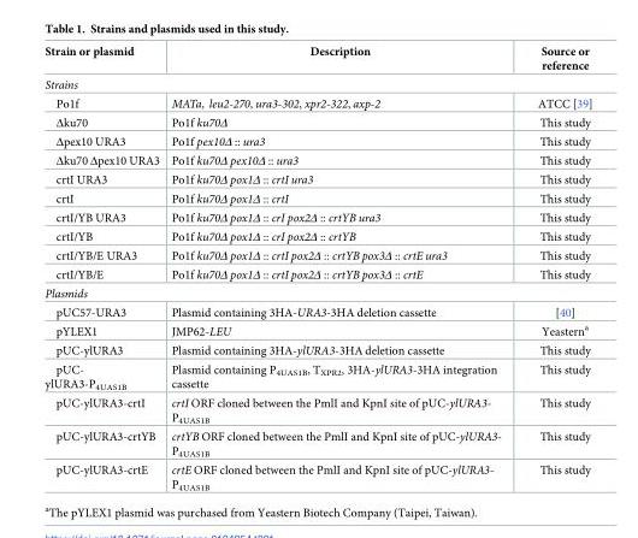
<table><thead><tr><td>Strain or plasmid</td><td>Description</td><td>Source or reference</td></tr></thead><tbody><tr><td colspan="3">Strains</td></tr><tr><td>Po1f</td><td>MATa, leu2-270, ura3-302, xpr2-322, axp-2</td><td>ATCC [39]</td></tr><tr><td>Δku70</td><td>Po1f ku70Δ</td><td>This study</td></tr><tr><td>Δpex10 URA3</td><td>Po1f pex10Δ :: ura3</td><td>This study</td></tr><tr><td>Δku70 Δpex10 URA3</td><td>Po1f ku70Δ pex10Δ :: ura3</td><td>This study</td></tr><tr><td>crtI URA3</td><td>Po1f ku70Δ pox1Δ :: crtI ura3</td><td>This study</td></tr><tr><td>crtI</td><td>Po1f ku70Δ pox1Δ :: crtI</td><td>This study</td></tr><tr><td>crtI/YB URA3</td><td>Po1f ku70Δ pox1Δ :: crI pox2Δ :: crtYB ura3</td><td>This study</td></tr><tr><td>crtI/YB</td><td>Po1f ku70Δ pox1Δ :: crI pox2Δ :: crtYB</td><td>This study</td></tr><tr><td>crtI/YB/E URA3</td><td>Po1f ku70Δ pox1Δ :: crtI pox2Δ :: crtYB pox3Δ :: crtE ura3</td><td>This study</td></tr><tr><td>crtI/YB/E</td><td>Po1f ku70Δ pox1Δ :: crtI pox2Δ :: crtYB pox3Δ :: crtE</td><td>This study</td></tr><tr><td colspan="3">Plasmids</td></tr><tr><td>pUC57-URA3</td><td>Plasmid containing 3HA-URA3-3HA deletion cassette</td><td>[40]</td></tr><tr><td>pYLEX1</td><td>JMP62-LEU</td><td>Yeastern<sup>a</sup></td></tr><tr><td>pUC-ylURA3</td><td>Plasmid containing 3HA-ylURA3-3HA deletion cassette</td><td>This study</td></tr><tr><td>pUC- ylURA3-P<sub>4UAS1B</sub></td><td>Plasmid containing P<sub>4UAS1B</sub>, T<sub>XPR2</sub>, 3HA-ylURA3-3HA integration cassette</td><td>This study</td></tr><tr><td>pUC-ylURA3-crtI</td><td>crtI ORF cloned between the PmlI and KpnI site of pUC-ylURA3- P<sub>4UAS1B</sub></td><td>This study</td></tr><tr><td>pUC-ylURA3-crtYB</td><td>crtYB ORF cloned between the PmlI and KpnI site of pUC-ylURA3- P<sub>4UAS1B</sub></td><td>This study</td></tr><tr><td>pUC-ylURA3-crtE</td><td>crtE ORF cloned between the PmlI and KpnI site of pUC-ylURA3- P<sub>4UAS1B</sub></td><td>This study</td></tr></tbody></table>